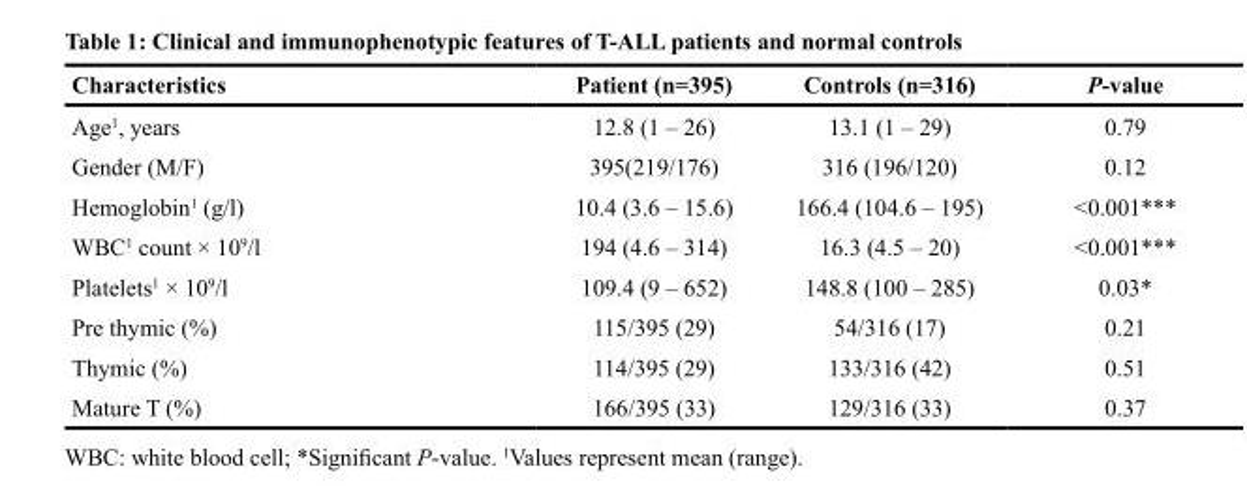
<table><thead><tr><td>Characteristics</td><td>Patient (n=395)</td><td>Controls (n=316)</td><td>P-value</td></tr></thead><tbody><tr><td>Age<sup>1</sup>, years</td><td>12.8 (1 – 26)</td><td>13.1 (1 – 29)</td><td>0.79</td></tr><tr><td>Gender (M/F)</td><td>395(219/176)</td><td>316 (196/120)</td><td>0.12</td></tr><tr><td>Hemoglobin<sup>1</sup> (g/l)</td><td>10.4 (3.6 – 15.6)</td><td>166.4 (104.6 – 195)</td><td>&lt;0.001***</td></tr><tr><td>WBC<sup>1</sup> count × 10<sup>9</sup>/l</td><td>194 (4.6 – 314)</td><td>16.3 (4.5 – 20)</td><td>&lt;0.001***</td></tr><tr><td>Platelets<sup>1</sup> × 10<sup>9</sup>/l</td><td>109.4 (9 – 652)</td><td>148.8 (100 – 285)</td><td>0.03*</td></tr><tr><td>Pre thymic (%)</td><td>115/395 (29)</td><td>54/316 (17)</td><td>0.21</td></tr><tr><td>Thymic (%)</td><td>114/395 (29)</td><td>133/316 (42)</td><td>0.51</td></tr><tr><td>Mature T (%)</td><td>166/395 (33)</td><td>129/316 (33)</td><td>0.37</td></tr></tbody></table>